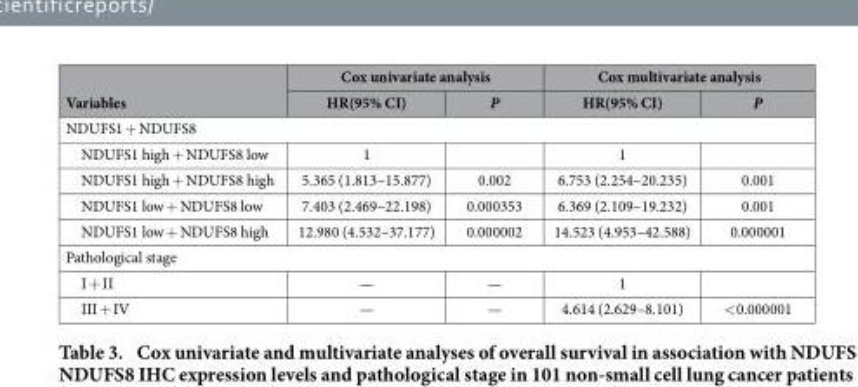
<table><thead><tr><td rowspan="2">Variables</td><td colspan="2">Cox univariate analysis</td><td colspan="2">Cox multivariate analysis</td></tr><tr><td>HR(95% CI)</td><td>P</td><td>HR(95% CI)</td><td>P</td></tr></thead><tbody><tr><td colspan="5">NDUFS1 + NDUFS8</td></tr><tr><td>NDUFS1 high + NDUFS8 low</td><td>1</td><td></td><td>1</td><td></td></tr><tr><td>NDUFS1 high + NDUFS8 high</td><td>5.365 (1.813–15.877)</td><td>0.002</td><td>6.753 (2.254–20.235)</td><td>0.001</td></tr><tr><td>NDUFS1 low + NDUFS8 low</td><td>7.403 (2.469–22.198)</td><td>0.000353</td><td>6.369 (2.109–19.232)</td><td>0.001</td></tr><tr><td>NDUFS1 low + NDUFS8 high</td><td>12.980 (4.532–37.177)</td><td>0.000002</td><td>14.523 (4.953–42.588)</td><td>0.000001</td></tr><tr><td colspan="5">Pathological stage</td></tr><tr><td>I + II</td><td>—</td><td>—</td><td>1</td><td></td></tr><tr><td>III + IV</td><td>—</td><td>—</td><td>4.614 (2.629–8.101)</td><td>&lt; 0.000001</td></tr></tbody></table>